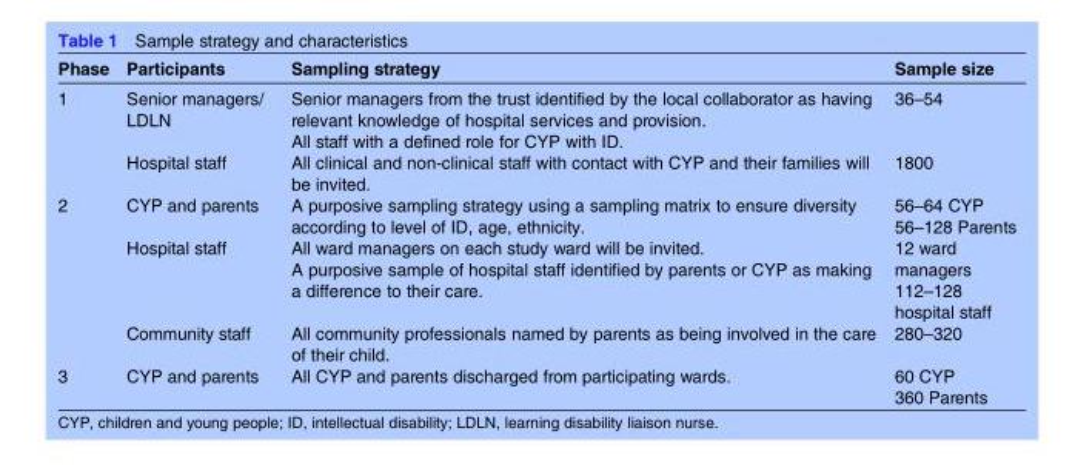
<table><thead><tr><td>Phase</td><td>Participants</td><td>Sampling strategy</td><td>Sample size</td></tr></thead><tbody><tr><td rowspan="2">1</td><td>Senior managers/ LDLN</td><td>Senior managers from the trust identified by the local collaborator as having relevant knowledge of hospital services and provision. All staff with a defined role for CYP with ID.</td><td>36–54</td></tr><tr><td>Hospital staff</td><td>All clinical and non-clinical staff with contact with CYP and their families will be invited.</td><td>1800</td></tr><tr><td rowspan="3">2</td><td>CYP and parents</td><td>A purposive sampling strategy using a sampling matrix to ensure diversity according to level of ID, age, ethnicity.</td><td>56–64 CYP 56–128 Parents</td></tr><tr><td>Hospital staff</td><td>All ward managers on each study ward will be invited. A purposive sample of hospital staff identified by parents or CYP as making a difference to their care.</td><td>12 ward managers 112–128 hospital staff</td></tr><tr><td>Community staff</td><td>All community professionals named by parents as being involved in the care of their child.</td><td>280–320</td></tr><tr><td>3</td><td>CYP and parents</td><td>All CYP and parents discharged from participating wards.</td><td>60 CYP 360 Parents</td></tr></tbody></table>